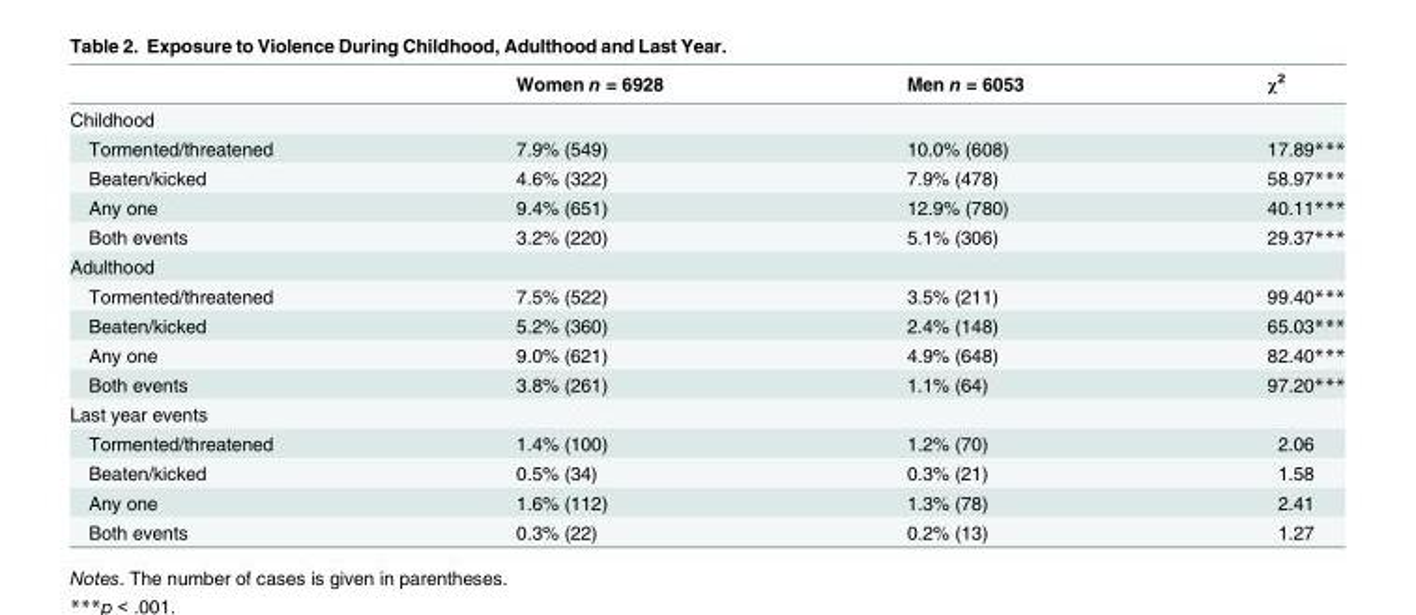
<table><thead><tr><td></td><td>Women n = 6928</td><td>Men n = 6053</td><td>χ<sup>2</sup></td></tr></thead><tbody><tr><td colspan="4">Childhood</td></tr><tr><td>Tormented/threatened</td><td>7.9% (549)</td><td>10.0% (608)</td><td>17.89***</td></tr><tr><td>Beaten/kicked</td><td>4.6% (322)</td><td>7.9% (478)</td><td>58.97***</td></tr><tr><td>Any one</td><td>9.4% (651)</td><td>12.9% (780)</td><td>40.11***</td></tr><tr><td>Both events</td><td>3.2% (220)</td><td>5.1% (306)</td><td>29.37***</td></tr><tr><td colspan="4">Adulthood</td></tr><tr><td>Tormented/threatened</td><td>7.5% (522)</td><td>3.5% (211)</td><td>99.40***</td></tr><tr><td>Beaten/kicked</td><td>5.2% (360)</td><td>2.4% (148)</td><td>65.03***</td></tr><tr><td>Any one</td><td>9.0% (621)</td><td>4.9% (648)</td><td>82.40***</td></tr><tr><td>Both events</td><td>3.8% (261)</td><td>1.1% (64)</td><td>97.20***</td></tr><tr><td colspan="4">Last year events</td></tr><tr><td>Tormented/threatened</td><td>1.4% (100)</td><td>1.2% (70)</td><td>2.06</td></tr><tr><td>Beaten/kicked</td><td>0.5% (34)</td><td>0.3% (21)</td><td>1.58</td></tr><tr><td>Any one</td><td>1.6% (112)</td><td>1.3% (78)</td><td>2.41</td></tr><tr><td>Both events</td><td>0.3% (22)</td><td>0.2% (13)</td><td>1.27</td></tr></tbody></table>